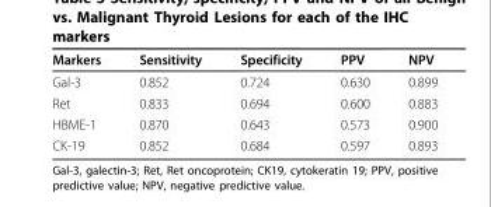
<table><thead><tr><td>Markers</td><td>Sensitivity</td><td>Specificity</td><td>PPV</td><td>NPV</td></tr></thead><tbody><tr><td>Gal-3</td><td>0.852</td><td>0.724</td><td>0.630</td><td>0.899</td></tr><tr><td>Ret</td><td>0.833</td><td>0.694</td><td>0.600</td><td>0.883</td></tr><tr><td>HBME-1</td><td>0.870</td><td>0.643</td><td>0.573</td><td>0.900</td></tr><tr><td>CK-19</td><td>0.852</td><td>0.684</td><td>0.597</td><td>0.893</td></tr></tbody></table>